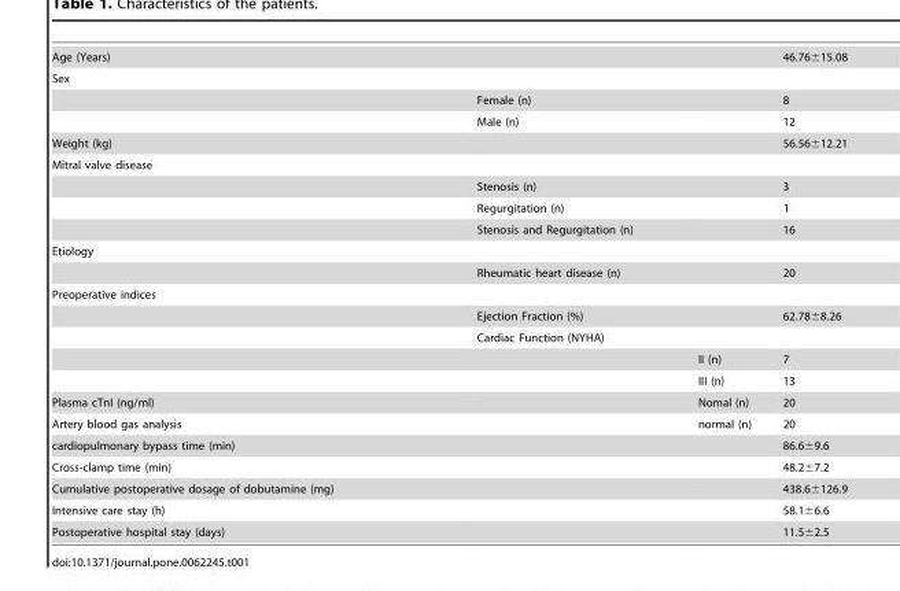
<table><tbody><tr><td>Age (Years)</td><td></td><td></td><td>46.76±15.08</td></tr><tr><td colspan="4">Sex</td></tr><tr><td></td><td>Female (n)</td><td></td><td>8</td></tr><tr><td></td><td>Male (n)</td><td></td><td>12</td></tr><tr><td>Weight (kg)</td><td></td><td></td><td>56.56±12.21</td></tr><tr><td colspan="4">Mitral valve disease</td></tr><tr><td></td><td>Stenosis (n)</td><td></td><td>3</td></tr><tr><td></td><td>Regurgitation (n)</td><td></td><td>1</td></tr><tr><td></td><td>Stenosis and Regurgitation (n)</td><td></td><td>16</td></tr><tr><td colspan="4">Etiology</td></tr><tr><td></td><td>Rheumatic heart disease (n)</td><td></td><td>20</td></tr><tr><td colspan="4">Preoperative indices</td></tr><tr><td></td><td>Ejection Fraction (%)</td><td></td><td>62.78±8.26</td></tr><tr><td></td><td>Cardiac Function (NYHA)</td><td></td><td></td></tr><tr><td></td><td></td><td>II (n)</td><td>7</td></tr><tr><td></td><td></td><td>III (n)</td><td>13</td></tr><tr><td>Plasma cTnI (ng/ml)</td><td></td><td>Nomal (n)</td><td>20</td></tr><tr><td>Artery blood gas analysis</td><td></td><td>normal (n)</td><td>20</td></tr><tr><td>cardiopulmonary bypass time (min)</td><td></td><td></td><td>86.6±9.6</td></tr><tr><td>Cross-clamp time (min)</td><td></td><td></td><td>48.2±7.2</td></tr><tr><td>Cumulative postoperative dosage of dobutamine (mg)</td><td></td><td></td><td>438.6±126.9</td></tr><tr><td>Intensive care stay (h)</td><td></td><td></td><td>58.1±6.6</td></tr><tr><td>Postoperative hospital stay (days)</td><td></td><td></td><td>11.5±2.5</td></tr></tbody></table>